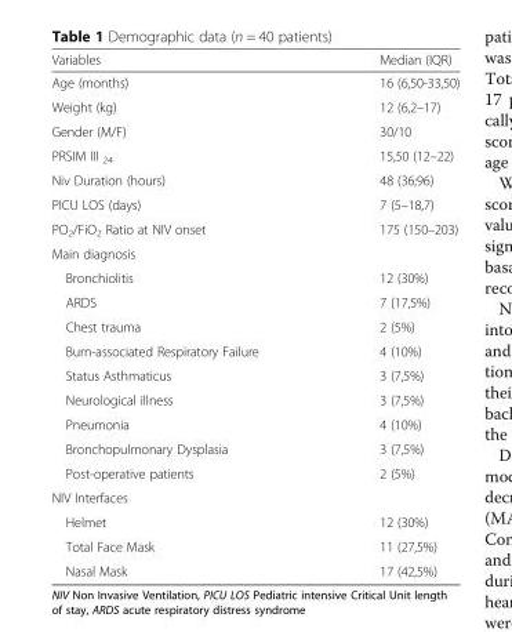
<table><thead><tr><td>Variables</td><td>Median (IQR)</td></tr></thead><tbody><tr><td>Age (months)</td><td>16 (6,50-33,50)</td></tr><tr><td>Weight (kg)</td><td>12 (6,2–17)</td></tr><tr><td>Gender (M/F)</td><td>30/10</td></tr><tr><td>PRSIM III <sub>24</sub></td><td>15,50 (12–22)</td></tr><tr><td>Niv Duration (hours)</td><td>48 (36;96)</td></tr><tr><td>PICU LOS (days)</td><td>7 (5–18,7)</td></tr><tr><td>PO<sub>2</sub>/FiO<sub>2</sub> Ratio at NIV onset</td><td>175 (150–203)</td></tr><tr><td colspan="2">Main diagnosis</td></tr><tr><td>Bronchiolitis</td><td>12 (30%)</td></tr><tr><td>ARDS</td><td>7 (17,5%)</td></tr><tr><td>Chest trauma</td><td>2 (5%)</td></tr><tr><td>Burn-associated Respiratory Failure</td><td>4 (10%)</td></tr><tr><td>Status Asthmaticus</td><td>3 (7,5%)</td></tr><tr><td>Neurological illness</td><td>3 (7,5%)</td></tr><tr><td>Pneumonia</td><td>4 (10%)</td></tr><tr><td>Bronchopulmonary Dysplasia</td><td>3 (7,5%)</td></tr><tr><td>Post-operative patients</td><td>2 (5%)</td></tr><tr><td colspan="2">NIV Interfaces</td></tr><tr><td>Helmet</td><td>12 (30%)</td></tr><tr><td>Total Face Mask</td><td>11 (27,5%)</td></tr><tr><td>Nasal Mask</td><td>17 (42,5%)</td></tr></tbody></table>